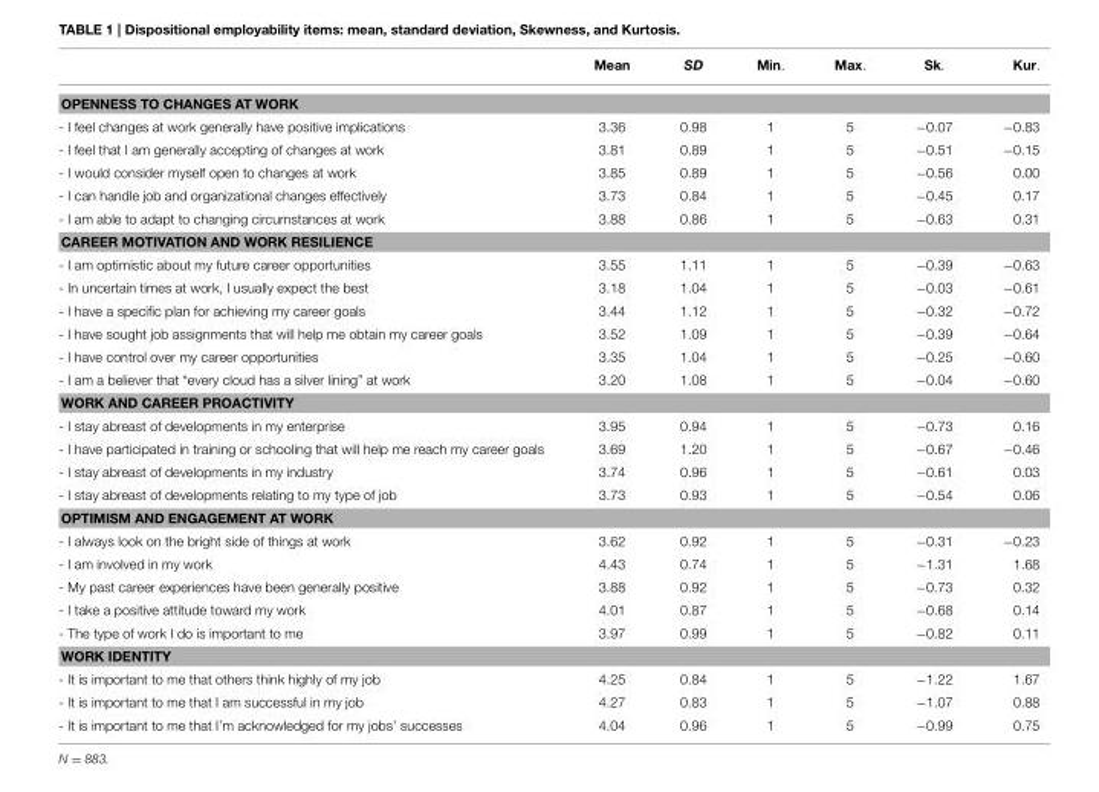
<table><thead><tr><td></td><td>Mean</td><td>SD</td><td>Min.</td><td>Max.</td><td>Sk.</td><td>Kur.</td></tr></thead><tbody><tr><td colspan="7">OPENNESS TO CHANGES AT WORK</td></tr><tr><td>- I feel changes at work generally have positive implications</td><td>3.36</td><td>0.98</td><td>1</td><td>5</td><td>−0.07</td><td>−0.83</td></tr><tr><td>- I feel that I am generally accepting of changes at work</td><td>3.81</td><td>0.89</td><td>1</td><td>5</td><td>−0.51</td><td>−0.15</td></tr><tr><td>- I would consider myself open to changes at work</td><td>3.85</td><td>0.89</td><td>1</td><td>5</td><td>−0.56</td><td>0.00</td></tr><tr><td>- I can handle job and organizational changes effectively</td><td>3.73</td><td>0.84</td><td>1</td><td>5</td><td>−0.45</td><td>0.17</td></tr><tr><td>- I am able to adapt to changing circumstances at work</td><td>3.88</td><td>0.86</td><td>1</td><td>5</td><td>−0.63</td><td>0.31</td></tr><tr><td colspan="7">CAREER MOTIVATION AND WORK RESILIENCE</td></tr><tr><td>- I am optimistic about my future career opportunities</td><td>3.55</td><td>1.11</td><td>1</td><td>5</td><td>−0.39</td><td>−0.63</td></tr><tr><td>- In uncertain times at work, I usually expect the best</td><td>3.18</td><td>1.04</td><td>1</td><td>5</td><td>−0.03</td><td>−0.61</td></tr><tr><td>- I have a specific plan for achieving my career goals</td><td>3.44</td><td>1.12</td><td>1</td><td>5</td><td>−0.32</td><td>−0.72</td></tr><tr><td>- I have sought job assignments that will help me obtain my career goals</td><td>3.52</td><td>1.09</td><td>1</td><td>5</td><td>−0.39</td><td>−0.64</td></tr><tr><td>- I have control over my career opportunities</td><td>3.35</td><td>1.04</td><td>1</td><td>5</td><td>−0.25</td><td>−0.60</td></tr><tr><td>- I am a believer that “every cloud has a silver lining” at work</td><td>3.20</td><td>1.08</td><td>1</td><td>5</td><td>−0.04</td><td>−0.60</td></tr><tr><td colspan="7">WORK AND CAREER PROACTIVITY</td></tr><tr><td>- I stay abreast of developments in my enterprise</td><td>3.95</td><td>0.94</td><td>1</td><td>5</td><td>−0.73</td><td>0.16</td></tr><tr><td>- I have participated in training or schooling that will help me reach my career goals</td><td>3.69</td><td>1.20</td><td>1</td><td>5</td><td>−0.67</td><td>−0.46</td></tr><tr><td>- I stay abreast of developments in my industry</td><td>3.74</td><td>0.96</td><td>1</td><td>5</td><td>−0.61</td><td>0.03</td></tr><tr><td>- I stay abreast of developments relating to my type of job</td><td>3.73</td><td>0.93</td><td>1</td><td>5</td><td>−0.54</td><td>0.06</td></tr><tr><td colspan="7">OPTIMISM AND ENGAGEMENT AT WORK</td></tr><tr><td>- I always look on the bright side of things at work</td><td>3.62</td><td>0.92</td><td>1</td><td>5</td><td>−0.31</td><td>−0.23</td></tr><tr><td>- I am involved in my work</td><td>4.43</td><td>0.74</td><td>1</td><td>5</td><td>−1.31</td><td>1.68</td></tr><tr><td>- My past career experiences have been generally positive</td><td>3.88</td><td>0.92</td><td>1</td><td>5</td><td>−0.73</td><td>0.32</td></tr><tr><td>- I take a positive attitude toward my work</td><td>4.01</td><td>0.87</td><td>1</td><td>5</td><td>−0.68</td><td>0.14</td></tr><tr><td>- The type of work I do is important to me</td><td>3.97</td><td>0.99</td><td>1</td><td>5</td><td>−0.82</td><td>0.11</td></tr><tr><td colspan="7">WORK IDENTITY</td></tr><tr><td>- It is important to me that others think highly of my job</td><td>4.25</td><td>0.84</td><td>1</td><td>5</td><td>−1.22</td><td>1.67</td></tr><tr><td>- It is important to me that I am successful in my job</td><td>4.27</td><td>0.83</td><td>1</td><td>5</td><td>−1.07</td><td>0.88</td></tr><tr><td>- It is important to me that I’m acknowledged for my jobs’ successes</td><td>4.04</td><td>0.96</td><td>1</td><td>5</td><td>−0.99</td><td>0.75</td></tr></tbody></table>